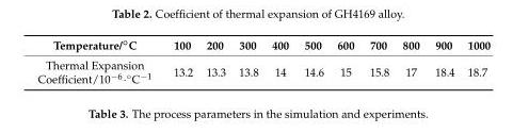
<table><thead><tr><td>Temperature/◦C</td><td>100</td><td>200</td><td>300</td><td>400</td><td>500</td><td>600</td><td>700</td><td>800</td><td>900</td><td>1000</td></tr></thead><tbody><tr><td>Thermal Expansion Coefficient/10−6·◦C−1</td><td>13.2</td><td>13.3</td><td>13.8</td><td>14</td><td>14.6</td><td>15</td><td>15.8</td><td>17</td><td>18.4</td><td>18.7</td></tr></tbody></table>